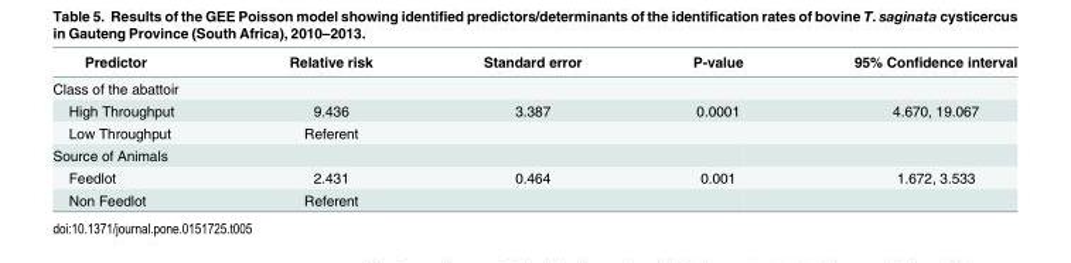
<table><thead><tr><td>Predictor</td><td>Relative risk</td><td>Standard error</td><td>P-value</td><td>95% Confidence interval</td></tr></thead><tbody><tr><td colspan="5">Class of the abattoir</td></tr><tr><td>High Throughput</td><td>9.436</td><td>3.387</td><td>0.0001</td><td>4.670, 19.067</td></tr><tr><td>Low Throughput</td><td>Referent</td><td></td><td></td><td></td></tr><tr><td colspan="5">Source of Animals</td></tr><tr><td>Feedlot</td><td>2.431</td><td>0.464</td><td>0.001</td><td>1.672, 3.533</td></tr><tr><td>Non Feedlot</td><td>Referent</td><td></td><td></td><td></td></tr></tbody></table>